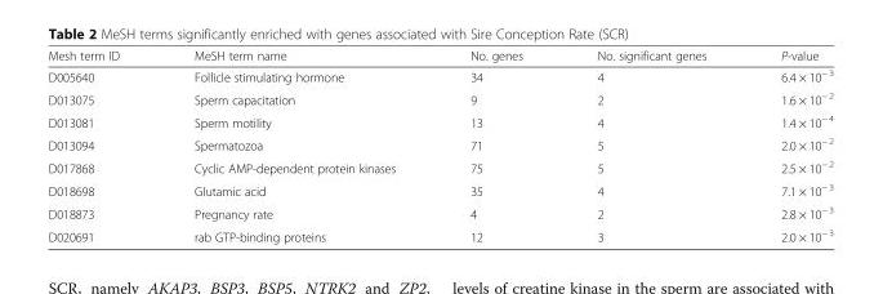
<table><thead><tr><td>Mesh term ID</td><td>MeSH term name</td><td>No. genes</td><td>No. significant genes</td><td>P-value</td></tr></thead><tbody><tr><td>D005640</td><td>Follicle stimulating hormone</td><td>34</td><td>4</td><td>6.4 × 10<sup>− 3</sup></td></tr><tr><td>D013075</td><td>Sperm capacitation</td><td>9</td><td>2</td><td>1.6 × 10<sup>− 2</sup></td></tr><tr><td>D013081</td><td>Sperm motility</td><td>13</td><td>4</td><td>1.4 × 10<sup>− 4</sup></td></tr><tr><td>D013094</td><td>Spermatozoa</td><td>71</td><td>5</td><td>2.0 × 10<sup>− 2</sup></td></tr><tr><td>D017868</td><td>Cyclic AMP-dependent protein kinases</td><td>75</td><td>5</td><td>2.5 × 10<sup>− 2</sup></td></tr><tr><td>D018698</td><td>Glutamic acid</td><td>35</td><td>4</td><td>7.1 × 10<sup>− 3</sup></td></tr><tr><td>D018873</td><td>Pregnancy rate</td><td>4</td><td>2</td><td>2.8 × 10<sup>− 3</sup></td></tr><tr><td>D020691</td><td>rab GTP-binding proteins</td><td>12</td><td>3</td><td>2.0 × 10<sup>− 3</sup></td></tr></tbody></table>